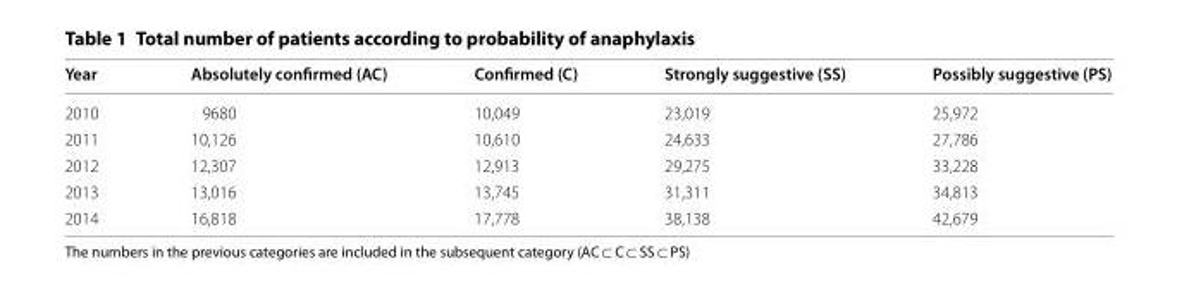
<table><thead><tr><td>Year</td><td>Absolutely confirmed (AC)</td><td>Confirmed (C)</td><td>Strongly suggestive (SS)</td><td>Possibly suggestive (PS)</td></tr></thead><tbody><tr><td>2010</td><td>9680</td><td>10,049</td><td>23,019</td><td>25,972</td></tr><tr><td>2011</td><td>10,126</td><td>10,610</td><td>24,633</td><td>27,786</td></tr><tr><td>2012</td><td>12,307</td><td>12,913</td><td>29,275</td><td>33,228</td></tr><tr><td>2013</td><td>13,016</td><td>13,745</td><td>31,311</td><td>34,813</td></tr><tr><td>2014</td><td>16,818</td><td>17,778</td><td>38,138</td><td>42,679</td></tr></tbody></table>